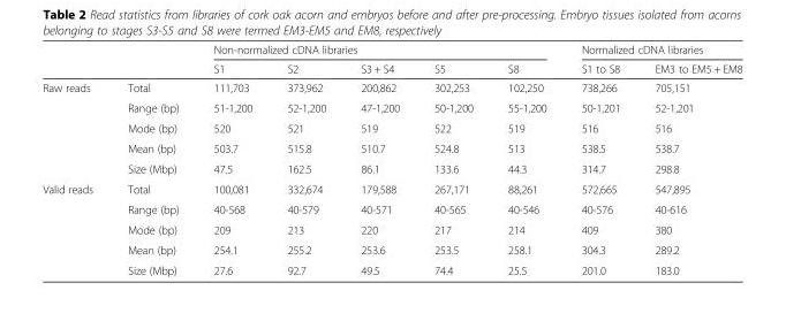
<table><thead><tr><td rowspan="2"></td><td rowspan="2"></td><td colspan="5">Non-normalized cDNA libraries</td><td colspan="2">Normalized cDNA libraries</td></tr><tr><td>S1</td><td>S2</td><td>S3 + S4</td><td>S5</td><td>S8</td><td>S1 to S8</td><td>EM3 to EM5 + EM8</td></tr></thead><tbody><tr><td rowspan="5">Raw reads</td><td>Total</td><td>111,703</td><td>373,962</td><td>200,862</td><td>302,253</td><td>102,250</td><td>738,266</td><td>705,151</td></tr><tr><td>Range (bp)</td><td>51-1,200</td><td>52-1,200</td><td>47-1,200</td><td>50-1,200</td><td>55-1,200</td><td>50-1,201</td><td>52-1,201</td></tr><tr><td>Mode (bp)</td><td>520</td><td>521</td><td>519</td><td>522</td><td>519</td><td>516</td><td>516</td></tr><tr><td>Mean (bp)</td><td>503.7</td><td>515.8</td><td>510.7</td><td>524.8</td><td>513</td><td>538.5</td><td>538.7</td></tr><tr><td>Size (Mbp)</td><td>47.5</td><td>162.5</td><td>86.1</td><td>133.6</td><td>44.3</td><td>314.7</td><td>298.8</td></tr><tr><td rowspan="5">Valid reads</td><td>Total</td><td>100,081</td><td>332,674</td><td>179,588</td><td>267,171</td><td>88,261</td><td>572,665</td><td>547,895</td></tr><tr><td>Range (bp)</td><td>40-568</td><td>40-579</td><td>40-571</td><td>40-565</td><td>40-546</td><td>40-576</td><td>40-616</td></tr><tr><td>Mode (bp)</td><td>209</td><td>213</td><td>220</td><td>217</td><td>214</td><td>409</td><td>380</td></tr><tr><td>Mean (bp)</td><td>254.1</td><td>255.2</td><td>253.6</td><td>253.5</td><td>258.1</td><td>304.3</td><td>289.2</td></tr><tr><td>Size (Mbp)</td><td>27.6</td><td>92.7</td><td>49.5</td><td>74.4</td><td>25.5</td><td>201.0</td><td>183.0</td></tr></tbody></table>